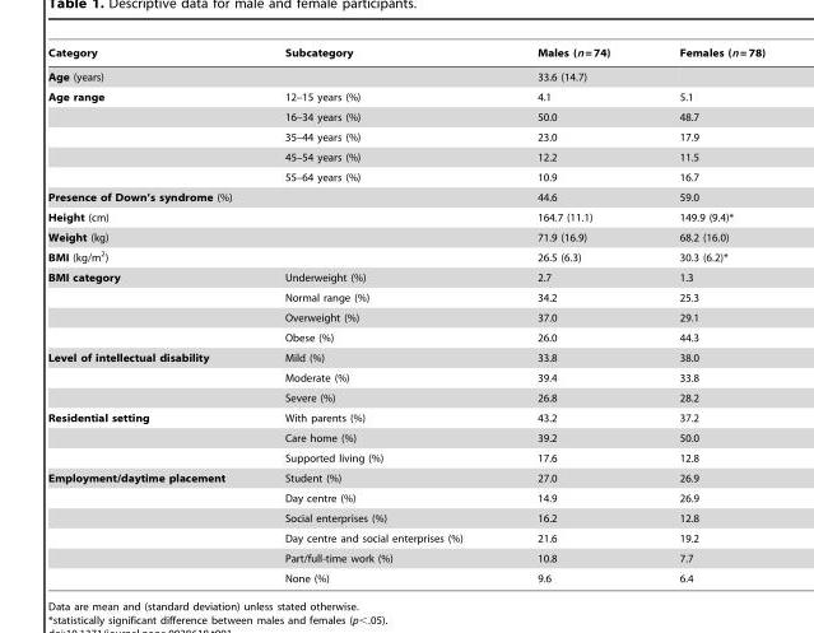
<table><thead><tr><td>Category</td><td>Subcategory</td><td>Males (n = 74)</td><td>Females (n = 78)</td></tr></thead><tbody><tr><td>Age (years)</td><td></td><td>33.6 (14.7)</td><td></td></tr><tr><td rowspan="5">Age range</td><td>12–15 years (%)</td><td>4.1</td><td>5.1</td></tr><tr><td>16–34 years (%)</td><td>50.0</td><td>48.7</td></tr><tr><td>35–44 years (%)</td><td>23.0</td><td>17.9</td></tr><tr><td>45–54 years (%)</td><td>12.2</td><td>11.5</td></tr><tr><td>55–64 years (%)</td><td>10.9</td><td>16.7</td></tr><tr><td>Presence of Down’s syndrome (%)</td><td></td><td>44.6</td><td>59.0</td></tr><tr><td>Height (cm)</td><td></td><td>164.7 (11.1)</td><td>149.9 (9.4)*</td></tr><tr><td>Weight (kg)</td><td></td><td>71.9 (16.9)</td><td>68.2 (16.0)</td></tr><tr><td>BMI (kg/m<sup>2</sup>)</td><td></td><td>26.5 (6.3)</td><td>30.3 (6.2)*</td></tr><tr><td rowspan="4">BMI category</td><td>Underweight (%)</td><td>2.7</td><td>1.3</td></tr><tr><td>Normal range (%)</td><td>34.2</td><td>25.3</td></tr><tr><td>Overweight (%)</td><td>37.0</td><td>29.1</td></tr><tr><td>Obese (%)</td><td>26.0</td><td>44.3</td></tr><tr><td rowspan="3">Level of intellectual disability</td><td>Mild (%)</td><td>33.8</td><td>38.0</td></tr><tr><td>Moderate (%)</td><td>39.4</td><td>33.8</td></tr><tr><td>Severe (%)</td><td>26.8</td><td>28.2</td></tr><tr><td rowspan="3">Residential setting</td><td>With parents (%)</td><td>43.2</td><td>37.2</td></tr><tr><td>Care home (%)</td><td>39.2</td><td>50.0</td></tr><tr><td>Supported living (%)</td><td>17.6</td><td>12.8</td></tr><tr><td rowspan="6">Employment/daytime placement</td><td>Student (%)</td><td>27.0</td><td>26.9</td></tr><tr><td>Day centre (%)</td><td>14.9</td><td>26.9</td></tr><tr><td>Social enterprises (%)</td><td>16.2</td><td>12.8</td></tr><tr><td>Day centre and social enterprises (%)</td><td>21.6</td><td>19.2</td></tr><tr><td>Part/full-time work (%)</td><td>10.8</td><td>7.7</td></tr><tr><td>None (%)</td><td>9.6</td><td>6.4</td></tr></tbody></table>